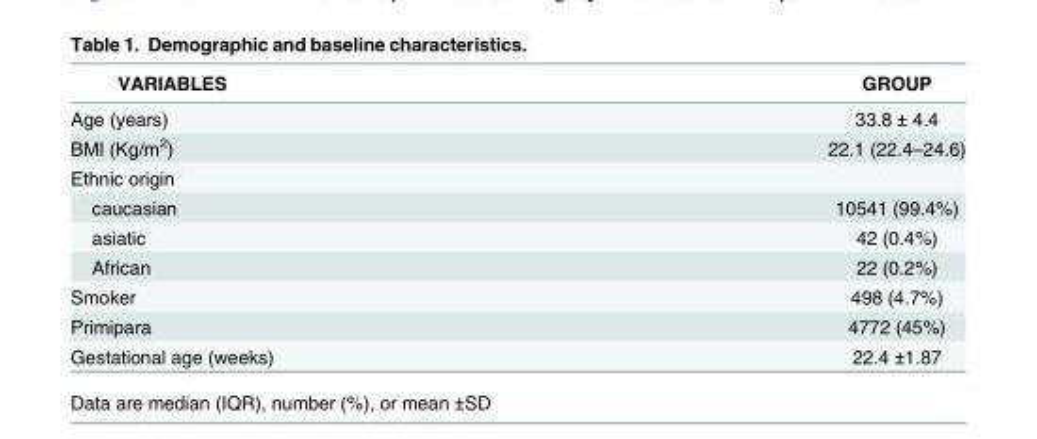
<table><thead><tr><td>VARIABLES</td><td>GROUP</td></tr></thead><tbody><tr><td>Age (years)</td><td>33.8 ± 4.4</td></tr><tr><td>BMI (Kg/m<sup>2</sup>)</td><td>22.1 (22.4–24.6)</td></tr><tr><td colspan="2">Ethnic origin</td></tr><tr><td>caucasian</td><td>10541 (99.4%)</td></tr><tr><td>asiatic</td><td>42 (0.4%)</td></tr><tr><td>African</td><td>22 (0.2%)</td></tr><tr><td>Smoker</td><td>498 (4.7%)</td></tr><tr><td>Primipara</td><td>4772 (45%)</td></tr><tr><td>Gestational age (weeks)</td><td>22.4 ±1.87</td></tr></tbody></table>